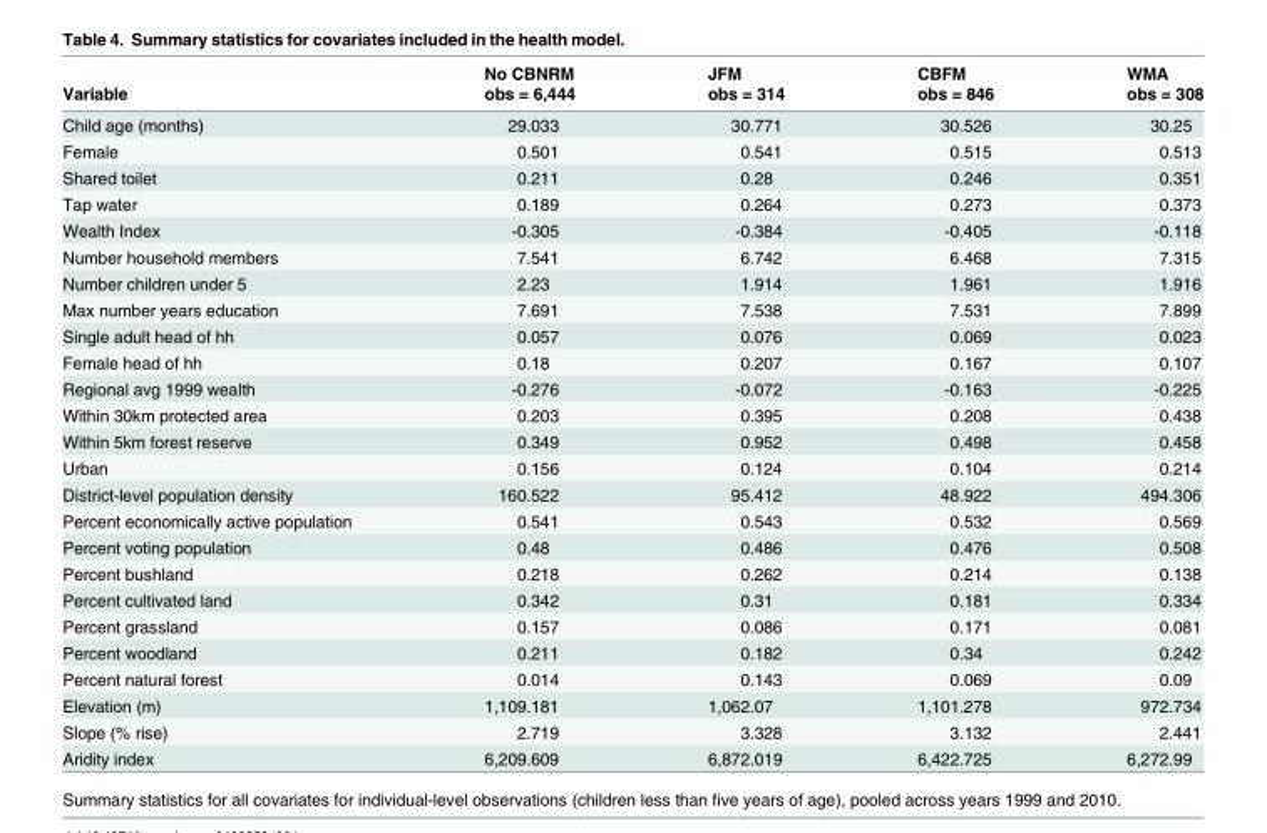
<table><thead><tr><td rowspan="2">Variable</td><td rowspan="2">No CBNRM obs = 6,444</td><td rowspan="2">JFM obs = 314</td><td rowspan="2">CBFM obs = 846</td><td rowspan="2">WMA obs = 308</td></tr><tr></tr></thead><tbody><tr><td>Child age (months)</td><td>29.033</td><td>30.771</td><td>30.526</td><td>30.25</td></tr><tr><td>Female</td><td>0.501</td><td>0.541</td><td>0.515</td><td>0.513</td></tr><tr><td>Shared toilet</td><td>0.211</td><td>0.28</td><td>0.246</td><td>0.351</td></tr><tr><td>Tap water</td><td>0.189</td><td>0.264</td><td>0.273</td><td>0.373</td></tr><tr><td>Wealth Index</td><td>-0.305</td><td>-0.384</td><td>-0.405</td><td>-0.118</td></tr><tr><td>Number household members</td><td>7.541</td><td>6.742</td><td>6.468</td><td>7.315</td></tr><tr><td>Number children under 5</td><td>2.23</td><td>1.914</td><td>1.961</td><td>1.916</td></tr><tr><td>Max number years education</td><td>7.691</td><td>7.538</td><td>7.531</td><td>7.899</td></tr><tr><td>Single adult head of hh</td><td>0.057</td><td>0.076</td><td>0.069</td><td>0.023</td></tr><tr><td>Female head of hh</td><td>0.18</td><td>0.207</td><td>0.167</td><td>0.107</td></tr><tr><td>Regional avg 1999 wealth</td><td>-0.276</td><td>-0.072</td><td>-0.163</td><td>-0.225</td></tr><tr><td>Within 30km protected area</td><td>0.203</td><td>0.395</td><td>0.208</td><td>0.438</td></tr><tr><td>Within 5km forest reserve</td><td>0.349</td><td>0.952</td><td>0.498</td><td>0.458</td></tr><tr><td>Urban</td><td>0.156</td><td>0.124</td><td>0.104</td><td>0.214</td></tr><tr><td>District-level population density</td><td>160.522</td><td>95.412</td><td>48.922</td><td>494.306</td></tr><tr><td>Percent economically active population</td><td>0.541</td><td>0.543</td><td>0.532</td><td>0.569</td></tr><tr><td>Percent voting population</td><td>0.48</td><td>0.486</td><td>0.476</td><td>0.508</td></tr><tr><td>Percent bushland</td><td>0.218</td><td>0.262</td><td>0.214</td><td>0.138</td></tr><tr><td>Percent cultivated land</td><td>0.342</td><td>0.31</td><td>0.181</td><td>0.334</td></tr><tr><td>Percent grassland</td><td>0.157</td><td>0.086</td><td>0.171</td><td>0.081</td></tr><tr><td>Percent woodland</td><td>0.211</td><td>0.182</td><td>0.34</td><td>0.242</td></tr><tr><td>Percent natural forest</td><td>0.014</td><td>0.143</td><td>0.069</td><td>0.09</td></tr><tr><td>Elevation (m)</td><td>1,109.181</td><td>1,062.07</td><td>1,101.278</td><td>972.734</td></tr><tr><td>Slope (% rise)</td><td>2.719</td><td>3.328</td><td>3.132</td><td>2.441</td></tr><tr><td>Aridity index</td><td>6,209.609</td><td>6,872.019</td><td>6,422.725</td><td>6,272.99</td></tr></tbody></table>